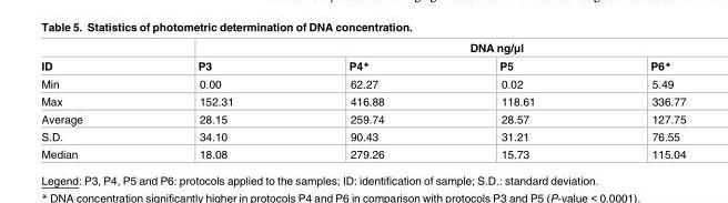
<table><thead><tr><td rowspan="2">ID</td><td colspan="4">DNA ng/μl</td></tr><tr><td>P3</td><td>P4*</td><td>P5</td><td>P6*</td></tr></thead><tbody><tr><td>Min</td><td>0.00</td><td>62.27</td><td>0.02</td><td>5.49</td></tr><tr><td>Max</td><td>152.31</td><td>416.88</td><td>118.61</td><td>336.77</td></tr><tr><td>Average</td><td>28.15</td><td>259.74</td><td>28.57</td><td>127.75</td></tr><tr><td>S.D.</td><td>34.10</td><td>90.43</td><td>31.21</td><td>76.55</td></tr><tr><td>Median</td><td>18.08</td><td>279.26</td><td>15.73</td><td>115.04</td></tr></tbody></table>